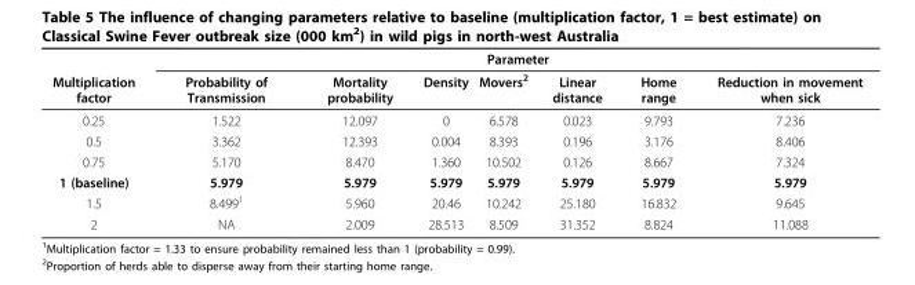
<table><thead><tr><td rowspan="2">Multiplication factor</td><td colspan="7">Parameter</td></tr><tr><td>Probability of Transmission</td><td>Mortality probability</td><td>Density</td><td>Movers<sup>2</sup></td><td>Linear distance</td><td>Home range</td><td>Reduction in movement when sick</td></tr></thead><tbody><tr><td>0.25</td><td>1.522</td><td>12.097</td><td>0</td><td>6.578</td><td>0.023</td><td>9.793</td><td>7.236</td></tr><tr><td>0.5</td><td>3.362</td><td>12.393</td><td>0.004</td><td>8.393</td><td>0.196</td><td>3.176</td><td>8.406</td></tr><tr><td>0.75</td><td>5.170</td><td>8.470</td><td>1.360</td><td>10.502</td><td>0.126</td><td>8.667</td><td>7.324</td></tr><tr><td>1 (baseline)</td><td>5.979</td><td>5.979</td><td>5.979</td><td>5.979</td><td>5.979</td><td>5.979</td><td>5.979</td></tr><tr><td>1.5</td><td>8.499<sup>1</sup></td><td>5.960</td><td>20.46</td><td>10.242</td><td>25.180</td><td>16.832</td><td>9.645</td></tr><tr><td>2</td><td>NA</td><td>2.009</td><td>28.513</td><td>8.509</td><td>31.352</td><td>8.824</td><td>11.088</td></tr></tbody></table>